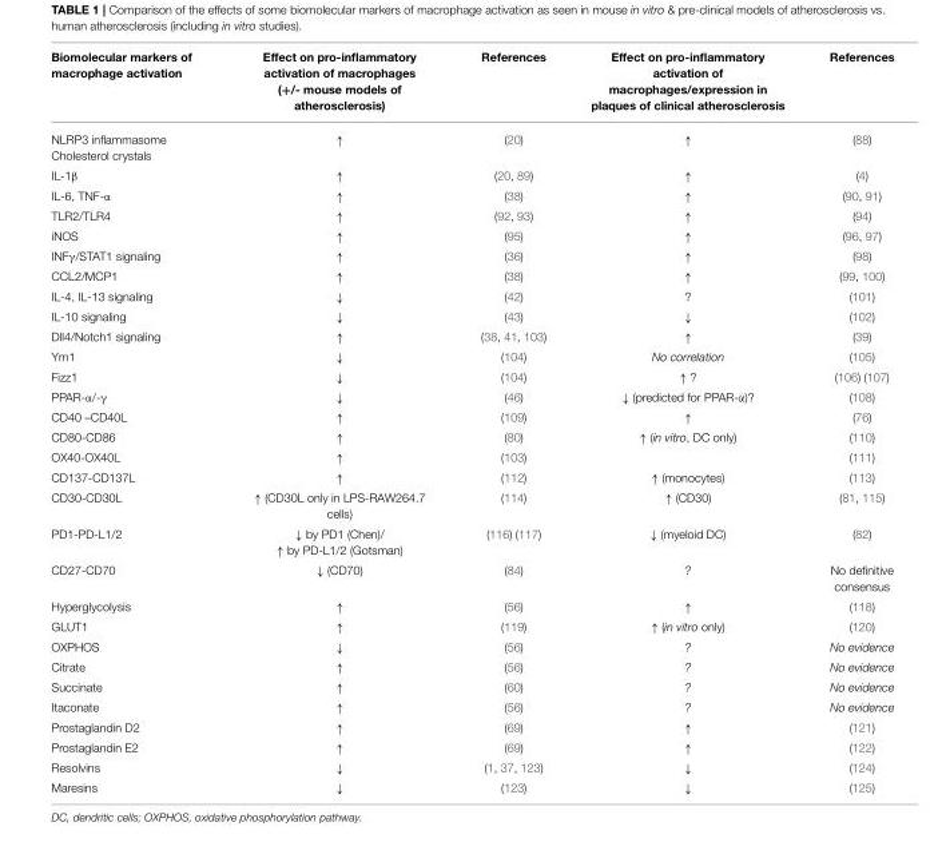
<table><thead><tr><td>Biomolecular markers of macrophage activation</td><td>Effect on pro-inflammatory activation of macrophages (+/- mouse models of atherosclerosis)</td><td>References</td><td>Effect on pro-inflammatory activation of macrophages/expression in plaques of clinical atherosclerosis</td><td>References</td></tr></thead><tbody><tr><td>NLRP3 inflammasome Cholesterol crystals</td><td>↑</td><td>(20)</td><td>↑</td><td>(88)</td></tr><tr><td>IL-1β</td><td>↑</td><td>(20, 89)</td><td>↑</td><td>(4)</td></tr><tr><td>IL-6, TNF-α</td><td>↑</td><td>(38)</td><td>↑</td><td>(90, 91)</td></tr><tr><td>TLR2/TLR4</td><td>↑</td><td>(92, 93)</td><td>↑</td><td>(94)</td></tr><tr><td>iNOS</td><td>↑</td><td>(95)</td><td>↑</td><td>(96, 97)</td></tr><tr><td>INFγ/STAT1 signaling</td><td>↑</td><td>(36)</td><td>↑</td><td>(98)</td></tr><tr><td>CCL2/MCP1</td><td>↑</td><td>(38)</td><td>↑</td><td>(99, 100)</td></tr><tr><td>IL-4, IL-13 signaling</td><td>↓</td><td>(42)</td><td>?</td><td>(101)</td></tr><tr><td>IL-10 signaling</td><td>↓</td><td>(43)</td><td>↓</td><td>(102)</td></tr><tr><td>Dll4/Notch1 signaling</td><td>↑</td><td>(38, 41, 103)</td><td>↑</td><td>(39)</td></tr><tr><td>Ym1</td><td>↓</td><td>(104)</td><td>No correlation</td><td>(105)</td></tr><tr><td>Fizz1</td><td>↓</td><td>(104)</td><td>↑ ?</td><td>(106) (107)</td></tr><tr><td>PPAR-α/-γ</td><td>↓</td><td>(46)</td><td>↓ (predicted for PPAR-α)?</td><td>(108)</td></tr><tr><td>CD40 –CD40L</td><td>↑</td><td>(109)</td><td>↑</td><td>(76)</td></tr><tr><td>CD80-CD86</td><td>↑</td><td>(80)</td><td>↑ (in vitro, DC only)</td><td>(110)</td></tr><tr><td>OX40-OX40L</td><td>↑</td><td>(103)</td><td></td><td>(111)</td></tr><tr><td>CD137-CD137L</td><td>↑</td><td>(112)</td><td>↑ (monocytes)</td><td>(113)</td></tr><tr><td>CD30-CD30L</td><td>↑ (CD30L only in LPS-RAW264.7 cells)</td><td>(114)</td><td>↑ (CD30)</td><td>(81, 115)</td></tr><tr><td>PD1-PD-L1/2</td><td>↓ by PD1 (Chen)/ ↑ by PD-L1/2 (Gotsman)</td><td>(116) (117)</td><td>↓ (myeloid DC)</td><td>(82)</td></tr><tr><td>CD27-CD70</td><td>↓ (CD70)</td><td>(84)</td><td>?</td><td>No definitive consensus</td></tr><tr><td>Hyperglycolysis</td><td>↑</td><td>(56)</td><td>↑</td><td>(118)</td></tr><tr><td>GLUT1</td><td>↑</td><td>(119)</td><td>↑ (in vitro only)</td><td>(120)</td></tr><tr><td>OXPHOS</td><td>↓</td><td>(56)</td><td>?</td><td>No evidence</td></tr><tr><td>Citrate</td><td>↑</td><td>(56)</td><td>?</td><td>No evidence</td></tr><tr><td>Succinate</td><td>↑</td><td>(60)</td><td>?</td><td>No evidence</td></tr><tr><td>Itaconate</td><td>↑</td><td>(56)</td><td>?</td><td>No evidence</td></tr><tr><td>Prostaglandin D2</td><td>↑</td><td>(69)</td><td>↑</td><td>(121)</td></tr><tr><td>Prostaglandin E2</td><td>↑</td><td>(69)</td><td>↑</td><td>(122)</td></tr><tr><td>Resolvins</td><td>↓</td><td>(1, 37, 123)</td><td>↓</td><td>(124)</td></tr><tr><td>Maresins</td><td>↓</td><td>(123)</td><td>↓</td><td>(125)</td></tr></tbody></table>